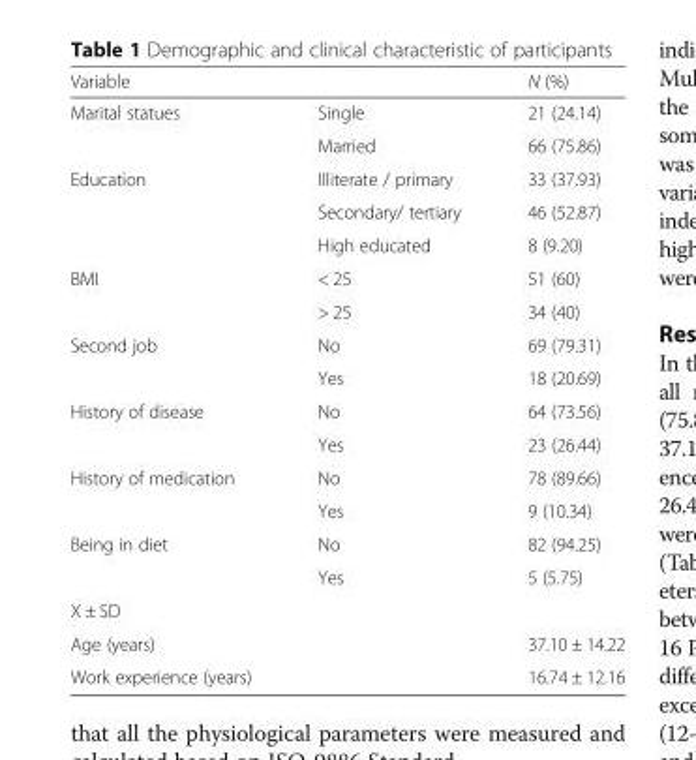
<table><thead><tr><td>Variable</td><td></td><td>N (%)</td></tr></thead><tbody><tr><td rowspan="2">Marital statues</td><td>Single</td><td>21 (24.14)</td></tr><tr><td>Married</td><td>66 (75.86)</td></tr><tr><td rowspan="3">Education</td><td>Illiterate / primary</td><td>33 (37.93)</td></tr><tr><td>Secondary/ tertiary</td><td>46 (52.87)</td></tr><tr><td>High educated</td><td>8 (9.20)</td></tr><tr><td rowspan="2">BMI</td><td>&lt; 25</td><td>51 (60)</td></tr><tr><td>&gt; 25</td><td>34 (40)</td></tr><tr><td rowspan="2">Second job</td><td>No</td><td>69 (79.31)</td></tr><tr><td>Yes</td><td>18 (20.69)</td></tr><tr><td rowspan="2">History of disease</td><td>No</td><td>64 (73.56)</td></tr><tr><td>Yes</td><td>23 (26.44)</td></tr><tr><td rowspan="2">History of medication</td><td>No</td><td>78 (89.66)</td></tr><tr><td>Yes</td><td>9 (10.34)</td></tr><tr><td rowspan="2">Being in diet</td><td>No</td><td>82 (94.25)</td></tr><tr><td>Yes</td><td>5 (5.75)</td></tr><tr><td colspan="3">X ± SD</td></tr><tr><td>Age (years)</td><td></td><td>37.10 ± 14.22</td></tr><tr><td>Work experience (years)</td><td></td><td>16.74 ± 12.16</td></tr></tbody></table>